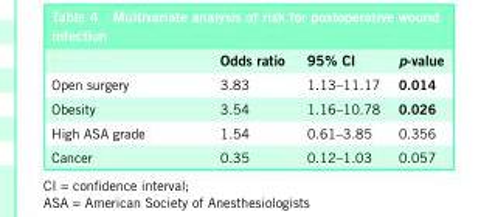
<table><thead><tr><td></td><td>Odds ratio</td><td>95% CI</td><td>p-value</td></tr></thead><tbody><tr><td>Open surgery</td><td>3.83</td><td>1.13–11.17</td><td>0.014</td></tr><tr><td>Obesity</td><td>3.54</td><td>1.16–10.78</td><td>0.026</td></tr><tr><td>High ASA grade</td><td>1.54</td><td>0.61–3.85</td><td>0.356</td></tr><tr><td>Cancer</td><td>0.35</td><td>0.12–1.03</td><td>0.057</td></tr></tbody></table>